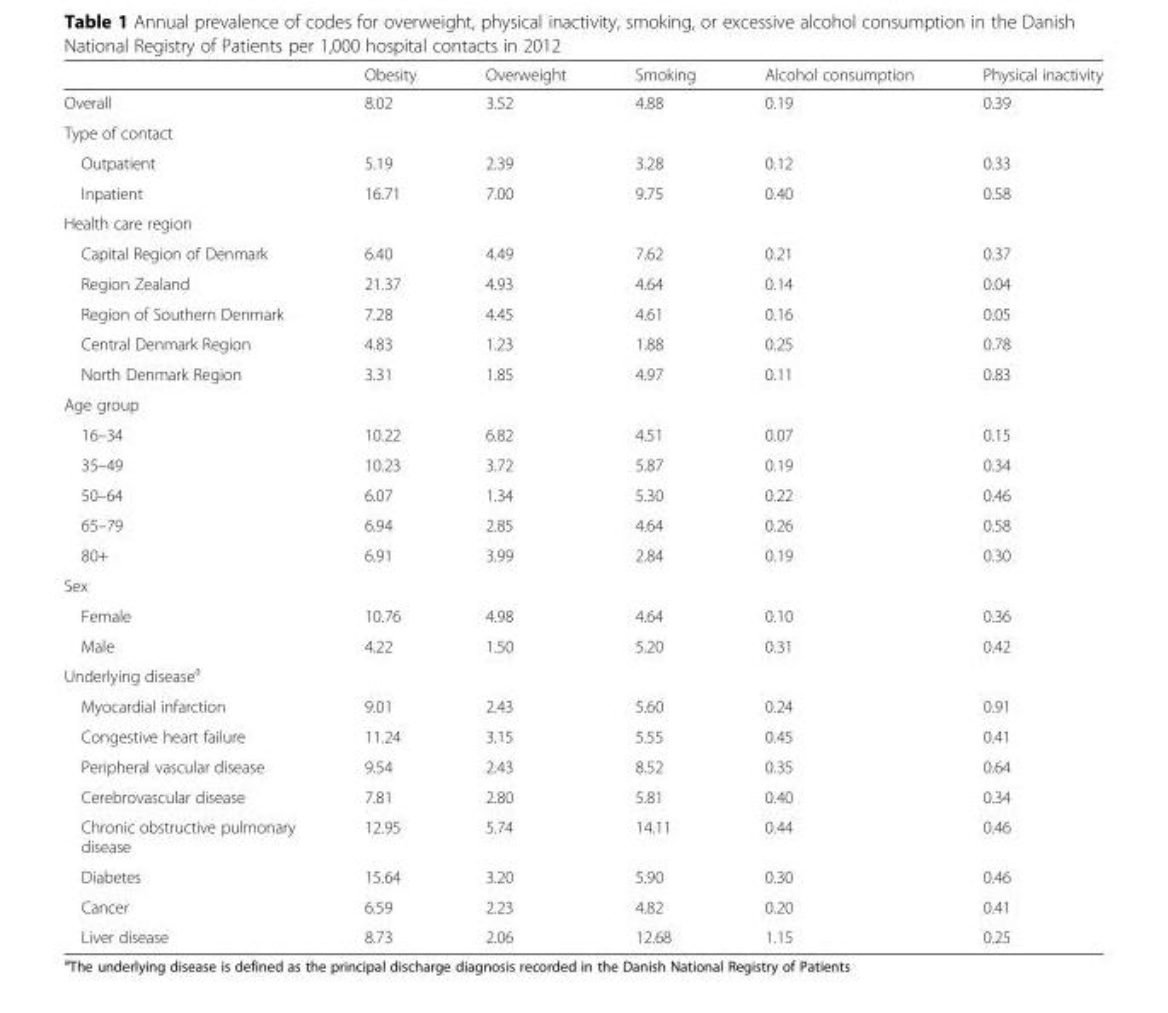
<table><thead><tr><td></td><td>Obesity</td><td>Overweight</td><td>Smoking</td><td>Alcohol consumption</td><td>Physical inactivity</td></tr></thead><tbody><tr><td>Overall</td><td>8.02</td><td>3.52</td><td>4.88</td><td>0.19</td><td>0.39</td></tr><tr><td colspan="6">Type of contact</td></tr><tr><td>Outpatient</td><td>5.19</td><td>2.39</td><td>3.28</td><td>0.12</td><td>0.33</td></tr><tr><td>Inpatient</td><td>16.71</td><td>7.00</td><td>9.75</td><td>0.40</td><td>0.58</td></tr><tr><td colspan="6">Health care region</td></tr><tr><td>Capital Region of Denmark</td><td>6.40</td><td>4.49</td><td>7.62</td><td>0.21</td><td>0.37</td></tr><tr><td>Region Zealand</td><td>21.37</td><td>4.93</td><td>4.64</td><td>0.14</td><td>0.04</td></tr><tr><td>Region of Southern Denmark</td><td>7.28</td><td>4.45</td><td>4.61</td><td>0.16</td><td>0.05</td></tr><tr><td>Central Denmark Region</td><td>4.83</td><td>1.23</td><td>1.88</td><td>0.25</td><td>0.78</td></tr><tr><td>North Denmark Region</td><td>3.31</td><td>1.85</td><td>4.97</td><td>0.11</td><td>0.83</td></tr><tr><td colspan="6">Age group</td></tr><tr><td>16–34</td><td>10.22</td><td>6.82</td><td>4.51</td><td>0.07</td><td>0.15</td></tr><tr><td>35–49</td><td>10.23</td><td>3.72</td><td>5.87</td><td>0.19</td><td>0.34</td></tr><tr><td>50–64</td><td>6.07</td><td>1.34</td><td>5.30</td><td>0.22</td><td>0.46</td></tr><tr><td>65–79</td><td>6.94</td><td>2.85</td><td>4.64</td><td>0.26</td><td>0.58</td></tr><tr><td>80+</td><td>6.91</td><td>3.99</td><td>2.84</td><td>0.19</td><td>0.30</td></tr><tr><td colspan="6">Sex</td></tr><tr><td>Female</td><td>10.76</td><td>4.98</td><td>4.64</td><td>0.10</td><td>0.36</td></tr><tr><td>Male</td><td>4.22</td><td>1.50</td><td>5.20</td><td>0.31</td><td>0.42</td></tr><tr><td colspan="6">Underlying disease<sup>a</sup></td></tr><tr><td>Myocardial infarction</td><td>9.01</td><td>2.43</td><td>5.60</td><td>0.24</td><td>0.91</td></tr><tr><td>Congestive heart failure</td><td>11.24</td><td>3.15</td><td>5.55</td><td>0.45</td><td>0.41</td></tr><tr><td>Peripheral vascular disease</td><td>9.54</td><td>2.43</td><td>8.52</td><td>0.35</td><td>0.64</td></tr><tr><td>Cerebrovascular disease</td><td>7.81</td><td>2.80</td><td>5.81</td><td>0.40</td><td>0.34</td></tr><tr><td>Chronic obstructive pulmonary disease</td><td>12.95</td><td>5.74</td><td>14.11</td><td>0.44</td><td>0.46</td></tr><tr><td>Diabetes</td><td>15.64</td><td>3.20</td><td>5.90</td><td>0.30</td><td>0.46</td></tr><tr><td>Cancer</td><td>6.59</td><td>2.23</td><td>4.82</td><td>0.20</td><td>0.41</td></tr><tr><td>Liver disease</td><td>8.73</td><td>2.06</td><td>12.68</td><td>1.15</td><td>0.25</td></tr></tbody></table>